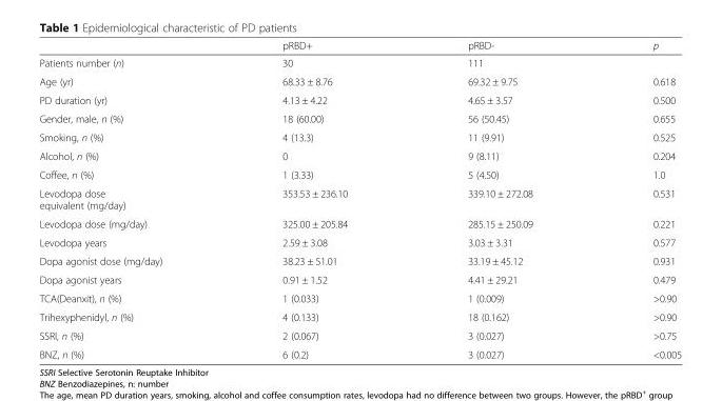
<table><thead><tr><td></td><td>pRBD+</td><td>pRBD-</td><td>p</td></tr></thead><tbody><tr><td>Patients number (n)</td><td>30</td><td>111</td><td></td></tr><tr><td>Age (yr)</td><td>68.33 ± 8.76</td><td>69.32 ± 9.75</td><td>0.618</td></tr><tr><td>PD duration (yr)</td><td>4.13 ± 4.22</td><td>4.65 ± 3.57</td><td>0.500</td></tr><tr><td>Gender, male, n (%)</td><td>18 (60.00)</td><td>56 (50.45)</td><td>0.655</td></tr><tr><td>Smoking, n (%)</td><td>4 (13.3)</td><td>11 (9.91)</td><td>0.525</td></tr><tr><td>Alcohol, n (%)</td><td>0</td><td>9 (8.11)</td><td>0.204</td></tr><tr><td>Coffee, n (%)</td><td>1 (3.33)</td><td>5 (4.50)</td><td>1.0</td></tr><tr><td>Levodopa dose equivalent (mg/day)</td><td>353.53 ± 236.10</td><td>339.10 ± 272.08</td><td>0.531</td></tr><tr><td>Levodopa dose (mg/day)</td><td>325.00 ± 205.84</td><td>285.15 ± 250.09</td><td>0.221</td></tr><tr><td>Levodopa years</td><td>2.59 ± 3.08</td><td>3.03 ± 3.31</td><td>0.577</td></tr><tr><td>Dopa agonist dose (mg/day)</td><td>38.23 ± 51.01</td><td>33.19 ± 45.12</td><td>0.931</td></tr><tr><td>Dopa agonist years</td><td>0.91 ± 1.52</td><td>4.41 ± 29.21</td><td>0.479</td></tr><tr><td>TCA(Deanxit), n (%)</td><td>1 (0.033)</td><td>1 (0.009)</td><td>&gt;0.90</td></tr><tr><td>Trihexyphenidyl, n (%)</td><td>4 (0.133)</td><td>18 (0.162)</td><td>&gt;0.90</td></tr><tr><td>SSRI, n (%)</td><td>2 (0.067)</td><td>3 (0.027)</td><td>&gt;0.75</td></tr><tr><td>BNZ, n (%)</td><td>6 (0.2)</td><td>3 (0.027)</td><td>&lt;0.005</td></tr></tbody></table>